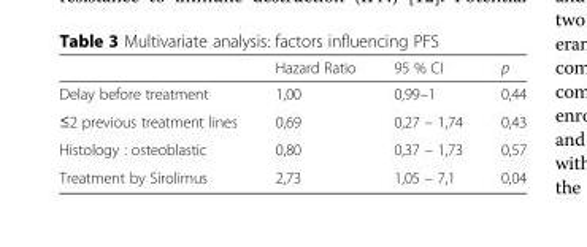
<table><thead><tr><td></td><td>Hazard Ratio</td><td>95 % CI</td><td>p</td></tr></thead><tbody><tr><td>Delay before treatment</td><td>1,00</td><td>0,99–1</td><td>0,44</td></tr><tr><td>≤2 previous treatment lines</td><td>0,69</td><td>0,27 – 1,74</td><td>0,43</td></tr><tr><td>Histology : osteoblastic</td><td>0,80</td><td>0,37 – 1,73</td><td>0,57</td></tr><tr><td>Treatment by Sirolimus</td><td>2,73</td><td>1,05 – 7,1</td><td>0,04</td></tr></tbody></table>